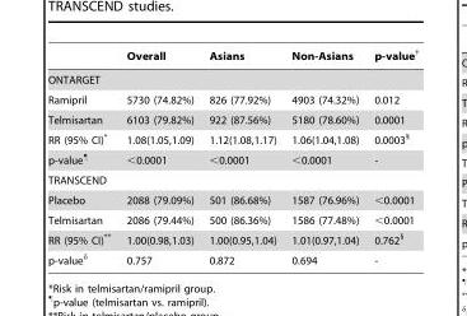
<table><thead><tr><td></td><td>Overall</td><td>Asians</td><td>Non-Asians</td><td>p-value†</td></tr></thead><tbody><tr><td colspan="5">ONTARGET</td></tr><tr><td>Ramipril</td><td>5730 (74.82%)</td><td>826 (77.92%)</td><td>4903 (74.32%)</td><td>0.012</td></tr><tr><td>Telmisartan</td><td>6103 (79.82%)</td><td>922 (87.56%)</td><td>5180 (78.60%)</td><td>0.0001</td></tr><tr><td>RR (95% CI)*</td><td>1.08(1.05,1.09)</td><td>1.12(1.08,1.17)</td><td>1.06(1.04,1.08)</td><td>0.0003§</td></tr><tr><td>p-value¶</td><td>&lt;0.0001</td><td>&lt;0.0001</td><td>&lt;0.0001</td><td>-</td></tr><tr><td colspan="5">TRANSCEND</td></tr><tr><td>Placebo</td><td>2088 (79.09%)</td><td>501 (86.68%)</td><td>1587 (76.96%)</td><td>&lt;0.0001</td></tr><tr><td>Telmisartan</td><td>2086 (79.44%)</td><td>500 (86.36%)</td><td>1586 (77.48%)</td><td>&lt;0.0001</td></tr><tr><td>RR (95% CI)**</td><td>1.00(0.98,1.03)</td><td>1.00(0.95,1.04)</td><td>1.01(0.97,1.04)</td><td>0.762§</td></tr><tr><td>p-valueδ</td><td>0.757</td><td>0.872</td><td>0.694</td><td>-</td></tr></tbody></table>